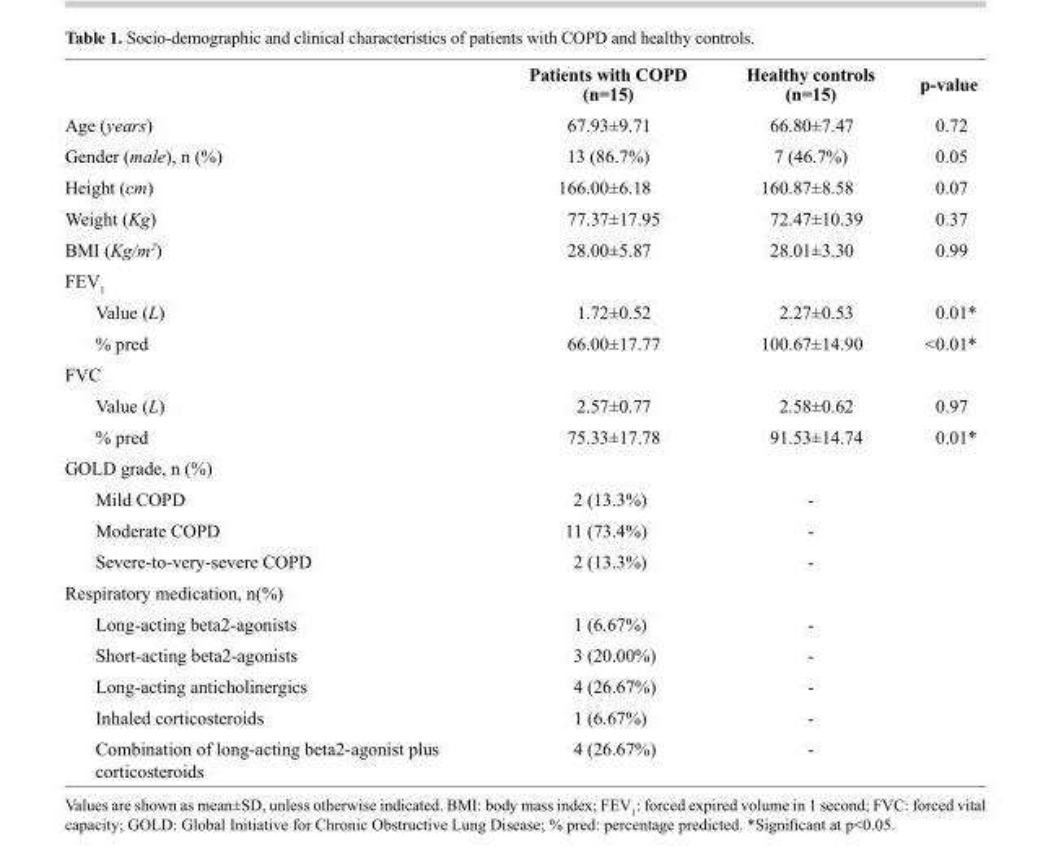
<table><thead><tr><td></td><td>Patients with COPD (n=15)</td><td>Healthy controls (n=15)</td><td>p-value</td></tr></thead><tbody><tr><td>Age (years)</td><td>67.93±9.71</td><td>66.80±7.47</td><td>0.72</td></tr><tr><td>Gender (male), n (%)</td><td>13 (86.7%)</td><td>7 (46.7%)</td><td>0.05</td></tr><tr><td>Height (cm)</td><td>166.00±6.18</td><td>160.87±8.58</td><td>0.07</td></tr><tr><td>Weight (Kg)</td><td>77.37±17.95</td><td>72.47±10.39</td><td>0.37</td></tr><tr><td>BMI (Kg/m<sup>2</sup>)</td><td>28.00±5.87</td><td>28.01±3.30</td><td>0.99</td></tr><tr><td colspan="4">FEV<sub>1</sub></td></tr><tr><td>Value (L)</td><td>1.72±0.52</td><td>2.27±0.53</td><td>0.01*</td></tr><tr><td>% pred</td><td>66.00±17.77</td><td>100.67±14.90</td><td>&lt;0.01*</td></tr><tr><td colspan="4">FVC</td></tr><tr><td>Value (L)</td><td>2.57±0.77</td><td>2.58±0.62</td><td>0.97</td></tr><tr><td>% pred</td><td>75.33±17.78</td><td>91.53±14.74</td><td>0.01*</td></tr><tr><td colspan="4">GOLD grade, n (%)</td></tr><tr><td>Mild COPD</td><td>2 (13.3%)</td><td>-</td><td></td></tr><tr><td>Moderate COPD</td><td>11 (73.4%)</td><td>-</td><td></td></tr><tr><td>Severe-to-very-severe COPD</td><td>2 (13.3%)</td><td>-</td><td></td></tr><tr><td colspan="4">Respiratory medication, n(%)</td></tr><tr><td>Long-acting beta2-agonists</td><td>1 (6.67%)</td><td>-</td><td></td></tr><tr><td>Short-acting beta2-agonists</td><td>3 (20.00%)</td><td>-</td><td></td></tr><tr><td>Long-acting anticholinergics</td><td>4 (26.67%)</td><td>-</td><td></td></tr><tr><td>Inhaled corticosteroids</td><td>1 (6.67%)</td><td>-</td><td></td></tr><tr><td>Combination of long-acting beta2-agonist plus corticosteroids</td><td>4 (26.67%)</td><td>-</td><td></td></tr></tbody></table>